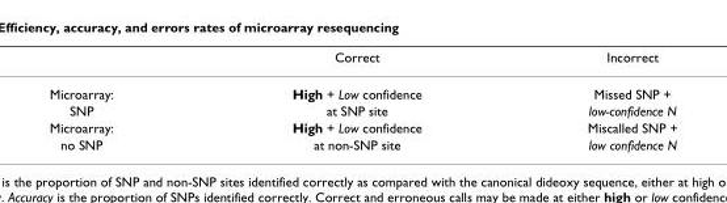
<table><thead><tr><td></td><td>Correct</td><td>Incorrect</td></tr></thead><tbody><tr><td>Microarray:</td><td>High + Low confidence</td><td>Missed SNP +</td></tr><tr><td>SNP</td><td>at SNP site</td><td>low-confidence N</td></tr><tr><td>Microarray:</td><td>High + Low confidence</td><td>Miscalled SNP +</td></tr><tr><td>no SNP</td><td>at non-SNP site</td><td>low confidence N</td></tr></tbody></table>